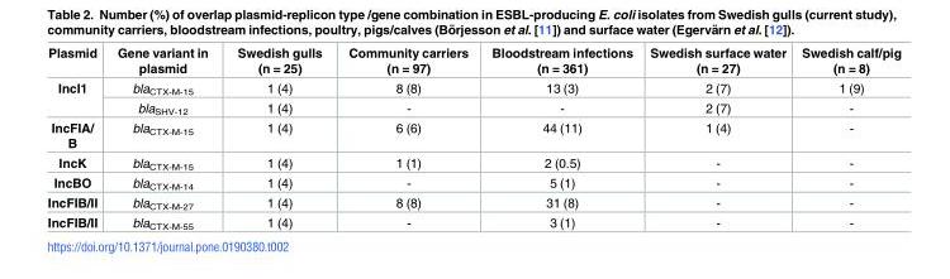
<table><thead><tr><td>Plasmid</td><td>Gene variant in plasmid</td><td>Swedish gulls (n = 25)</td><td>Community carriers (n = 97)</td><td>Bloodstream infections (n = 361)</td><td>Swedish surface water (n = 27)</td><td>Swedish calf/pig (n = 8)</td></tr></thead><tbody><tr><td rowspan="2">IncI1</td><td>bla<sub>CTX-M-15</sub></td><td>1 (4)</td><td>8 (8)</td><td>13 (3)</td><td>2 (7)</td><td>1 (9)</td></tr><tr><td>bla<sub>SHV-12</sub></td><td>1 (4)</td><td>-</td><td>-</td><td>2 (7)</td><td>-</td></tr><tr><td>IncFIA/ B</td><td>bla<sub>CTX-M-15</sub></td><td>1 (4)</td><td>6 (6)</td><td>44 (11)</td><td>1 (4)</td><td>-</td></tr><tr><td>IncK</td><td>bla<sub>CTX-M-15</sub></td><td>1 (4)</td><td>1 (1)</td><td>2 (0.5)</td><td>-</td><td>-</td></tr><tr><td>IncBO</td><td>bla<sub>CTX-M-14</sub></td><td>1 (4)</td><td>-</td><td>5 (1)</td><td>-</td><td>-</td></tr><tr><td>IncFIB/II</td><td>bla<sub>CTX-M-27</sub></td><td>1 (4)</td><td>8 (8)</td><td>31 (8)</td><td>-</td><td>-</td></tr><tr><td>IncFIB/II</td><td>bla<sub>CTX-M-55</sub></td><td>1 (4)</td><td>-</td><td>3 (1)</td><td>-</td><td>-</td></tr></tbody></table>